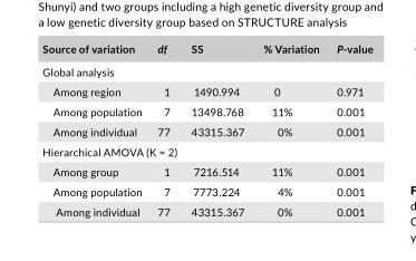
<table><thead><tr><td>Source of variation</td><td>df</td><td>SS</td><td>% Variation</td><td>P- value</td></tr></thead><tbody><tr><td colspan="5">Global analysis</td></tr><tr><td>Among region</td><td>1</td><td>1490.994</td><td>0</td><td>0.971</td></tr><tr><td>Among population</td><td>7</td><td>13498.768</td><td>11%</td><td>0.001</td></tr><tr><td>Among individual</td><td>77</td><td>43315.367</td><td>0%</td><td>0.001</td></tr><tr><td colspan="5">Hierarchical AMOVA (K = 2)</td></tr><tr><td>Among group</td><td>1</td><td>7216.514</td><td>11%</td><td>0.001</td></tr><tr><td>Among population</td><td>7</td><td>7773.224</td><td>4%</td><td>0.001</td></tr><tr><td>Among individual</td><td>77</td><td>43315.367</td><td>0%</td><td>0.001</td></tr></tbody></table>